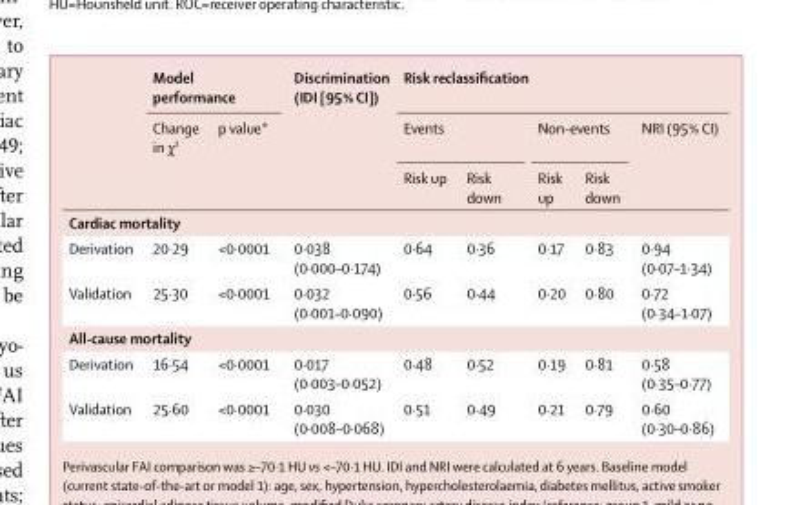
<table><thead><tr><td rowspan="3"></td><td colspan="2">Model performance</td><td rowspan="3">Discrimination (IDI [95% CI])</td><td colspan="5">Risk reclassification</td></tr><tr><td rowspan="2">Change in χ²</td><td rowspan="2">p value*</td><td colspan="2">Events</td><td colspan="2">Non-events</td><td rowspan="2">NRI (95% CI)</td></tr><tr><td>Risk up</td><td>Risk down</td><td>Risk up</td><td>Risk down</td></tr></thead><tbody><tr><td colspan="9">Cardiac mortality</td></tr><tr><td>Derivation</td><td>20·29</td><td>&lt;0·0001</td><td>0·038 (0·000–0·174)</td><td>0·64</td><td>0·36</td><td>0·17</td><td>0·83</td><td>0·94 (0·07–1·34)</td></tr><tr><td>Validation</td><td>25·30</td><td>&lt;0·0001</td><td>0·032 (0·001–0·090)</td><td>0·56</td><td>0·44</td><td>0·20</td><td>0·80</td><td>0·72 (0·34–1·07)</td></tr><tr><td colspan="9">All-cause mortality</td></tr><tr><td>Derivation</td><td>16·54</td><td>&lt;0·0001</td><td>0·017 (0·003–0·052)</td><td>0·48</td><td>0·52</td><td>0·19</td><td>0·81</td><td>0·58 (0·35–0·77)</td></tr><tr><td>Validation</td><td>25·60</td><td>&lt;0·0001</td><td>0·030 (0·008–0·068)</td><td>0·51</td><td>0·49</td><td>0·21</td><td>0·79</td><td>0·60 (0·30–0·86)</td></tr></tbody></table>